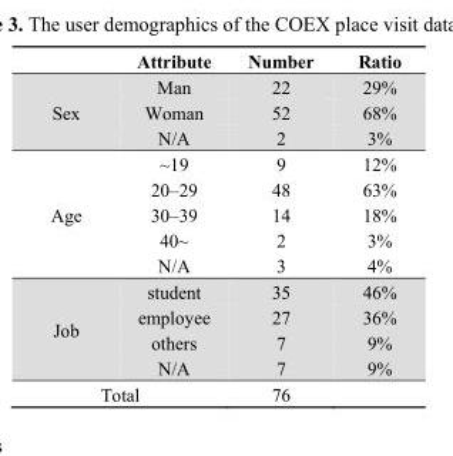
<table><thead><tr><td></td><td>Attribute</td><td>Number</td><td>Ratio</td></tr></thead><tbody><tr><td rowspan="3">Sex</td><td>Man</td><td>22</td><td>29%</td></tr><tr><td>Woman</td><td>52</td><td>68%</td></tr><tr><td>N/A</td><td>2</td><td>3%</td></tr><tr><td rowspan="5">Age</td><td>~19</td><td>9</td><td>12%</td></tr><tr><td>20–29</td><td>48</td><td>63%</td></tr><tr><td>30–39</td><td>14</td><td>18%</td></tr><tr><td>40~</td><td>2</td><td>3%</td></tr><tr><td>N/A</td><td>3</td><td>4%</td></tr><tr><td rowspan="4">Job</td><td>student</td><td>35</td><td>46%</td></tr><tr><td>employee</td><td>27</td><td>36%</td></tr><tr><td>others</td><td>7</td><td>9%</td></tr><tr><td>N/A</td><td>7</td><td>9%</td></tr><tr><td colspan="2">Total</td><td>76</td><td></td></tr></tbody></table>